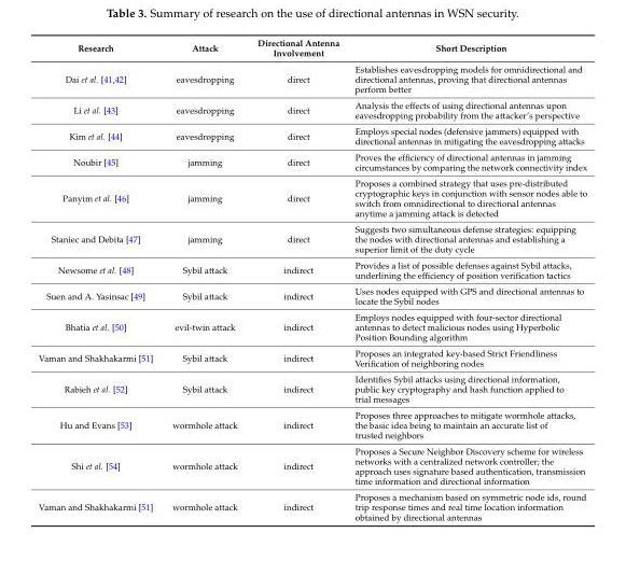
<table><thead><tr><td>Research</td><td>Attack</td><td>Directional Antenna Involvement</td><td>Short Description</td></tr></thead><tbody><tr><td>Dai et al. [41,42]</td><td>eavesdropping</td><td>direct</td><td>Establishes eavesdropping models for omnidirectional and directional antennas, proving that directional antennas perform better</td></tr><tr><td>Li et al. [43]</td><td>eavesdropping</td><td>direct</td><td>Analysis the effects of using directional antennas upon eavesdropping probability from the attacker’s perspective</td></tr><tr><td>Kim et al. [44]</td><td>eavesdropping</td><td>direct</td><td>Employs special nodes (defensive jammers) equipped with directional antennas in mitigating the eavesdropping attacks</td></tr><tr><td>Noubir [45]</td><td>jamming</td><td>direct</td><td>Proves the efficiency of directional antennas in jamming circumstances by comparing the network connectivity index</td></tr><tr><td>Panyim et al. [46]</td><td>jamming</td><td>direct</td><td>Proposes a combined strategy that uses pre-distributed cryptographic keys in conjunction with sensor nodes able to switch from omnidirectional to directional antennas anytime a jamming attack is detected</td></tr><tr><td>Staniec and Debita [47]</td><td>jamming</td><td>direct</td><td>Suggests two simultaneous defense strategies: equipping the nodes with directional antennas and establishing a superior limit of the duty cycle</td></tr><tr><td>Newsome et al. [48]</td><td>Sybil attack</td><td>indirect</td><td>Provides a list of possible defenses against Sybil attacks, underlining the efficiency of position verification tactics</td></tr><tr><td>Suen and A. Yasinsac [49]</td><td>Sybil attack</td><td>indirect</td><td>Uses nodes equipped with GPS and directional antennas to locate the Sybil nodes</td></tr><tr><td>Bhatia et al. [50]</td><td>evil-twin attack</td><td>indirect</td><td>Employs nodes equipped with four-sector directional antennas to detect malicious nodes using Hyperbolic Position Bounding algorithm</td></tr><tr><td>Vaman and Shakhakarmi [51]</td><td>Sybil attack</td><td>indirect</td><td>Proposes an integrated key-based Strict Friendliness Verification of neighboring nodes</td></tr><tr><td>Rabieh et al. [52]</td><td>Sybil attack</td><td>indirect</td><td>Identifies Sybil attacks using directional information, public key cryptography and hash function applied to trial messages</td></tr><tr><td>Hu and Evans [53]</td><td>wormhole attack</td><td>indirect</td><td>Proposes three approaches to mitigate wormhole attacks, the basic idea being to maintain an accurate list of trusted neighbors</td></tr><tr><td>Shi et al. [54]</td><td>wormhole attack</td><td>indirect</td><td>Proposes a Secure Neighbor Discovery scheme for wireless networks with a centralized network controller; the approach uses signature based authentication, transmission time information and directional information</td></tr><tr><td>Vaman and Shakhakarmi [51]</td><td>wormhole attack</td><td>indirect</td><td>Proposes a mechanism based on symmetric node ids, round trip response times and real time location information obtained by directional antennas</td></tr></tbody></table>